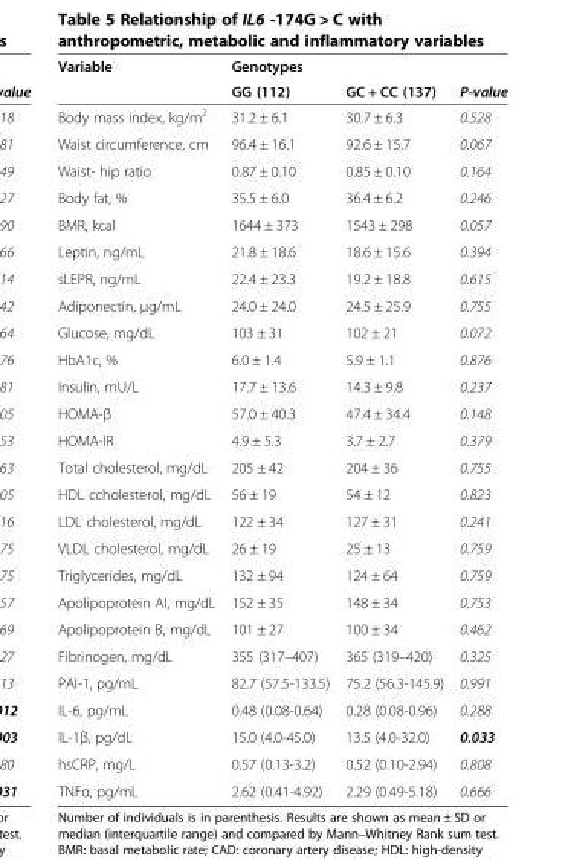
<table><thead><tr><td rowspan="2">Variable</td><td rowspan="2">Genotypes GG (112)</td><td rowspan="2">GC + CC (137)</td><td rowspan="2">P-value</td></tr><tr></tr></thead><tbody><tr><td>Body mass index, kg/m<sup>2</sup></td><td>31.2 ± 6.1</td><td>30.7 ± 6.3</td><td>0.528</td></tr><tr><td>Waist circumference, cm</td><td>96.4 ± 16.1</td><td>92.6 ± 15.7</td><td>0.067</td></tr><tr><td>Waist- hip ratio</td><td>0.87 ± 0.10</td><td>0.85 ± 0.10</td><td>0.164</td></tr><tr><td>Body fat, %</td><td>35.5 ± 6.0</td><td>36.4 ± 6.2</td><td>0.246</td></tr><tr><td>BMR, kcal</td><td>1644 ± 373</td><td>1543 ± 298</td><td>0.057</td></tr><tr><td>Leptin, ng/mL</td><td>21.8 ± 18.6</td><td>18.6 ± 15.6</td><td>0.394</td></tr><tr><td>sLEPR, ng/mL</td><td>22.4 ± 23.3</td><td>19.2 ± 18.8</td><td>0.615</td></tr><tr><td>Adiponectin, μg/mL</td><td>24.0 ± 24.0</td><td>24.5 ± 25.9</td><td>0.755</td></tr><tr><td>Glucose, mg/dL</td><td>103 ± 31</td><td>102 ± 21</td><td>0.072</td></tr><tr><td>HbA1c, %</td><td>6.0 ± 1.4</td><td>5.9 ± 1.1</td><td>0.876</td></tr><tr><td>Insulin, mU/L</td><td>17.7 ± 13.6</td><td>14.3 ± 9.8</td><td>0.237</td></tr><tr><td>HOMA-β</td><td>57.0 ± 40.3</td><td>47.4 ± 34.4</td><td>0.148</td></tr><tr><td>HOMA-IR</td><td>4.9 ± 5.3</td><td>3.7 ± 2.7</td><td>0.379</td></tr><tr><td>Total cholesterol, mg/dL</td><td>205 ± 42</td><td>204 ± 36</td><td>0.755</td></tr><tr><td>HDL ccholesterol, mg/dL</td><td>56 ± 19</td><td>54 ± 12</td><td>0.823</td></tr><tr><td>LDL cholesterol, mg/dL</td><td>122 ± 34</td><td>127 ± 31</td><td>0.241</td></tr><tr><td>VLDL cholesterol, mg/dL</td><td>26 ± 19</td><td>25 ± 13</td><td>0.759</td></tr><tr><td>Triglycerides, mg/dL</td><td>132 ± 94</td><td>124 ± 64</td><td>0.759</td></tr><tr><td>Apolipoprotein AI, mg/dL</td><td>152 ± 35</td><td>148 ± 34</td><td>0.753</td></tr><tr><td>Apolipoprotein B, mg/dL</td><td>101 ± 27</td><td>100 ± 34</td><td>0.462</td></tr><tr><td>Fibrinogen, mg/dL</td><td>355 (317–407)</td><td>365 (319–420)</td><td>0.325</td></tr><tr><td>PAI-1, pg/mL</td><td>82.7 (57.5-133.5)</td><td>75.2 (56.3-145.9)</td><td>0.991</td></tr><tr><td>IL-6, pg/mL</td><td>0.48 (0.08-0.64)</td><td>0.28 (0.08-0.96)</td><td>0.288</td></tr><tr><td>IL-1β, pg/dL</td><td>15.0 (4.0-45.0)</td><td>13.5 (4.0-32.0)</td><td>0.033</td></tr><tr><td>hsCRP, mg/L</td><td>0.57 (0.13-3.2)</td><td>0.52 (0.10-2.94)</td><td>0.808</td></tr><tr><td>TNFα, pg/mL</td><td>2.62 (0.41-4.92)</td><td>2.29 (0.49-5.18)</td><td>0.666</td></tr></tbody></table>